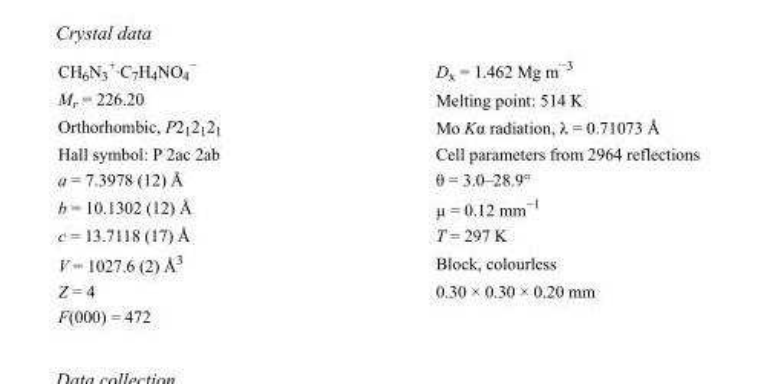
<table><tbody><tr><td>CH<sub>6</sub>N<sub>3</sub> <sup>+</sup>·C<sub>7</sub>H<sub>4</sub>NO<sub>4</sub> <sup>−</sup></td><td>D<sub>x</sub> = 1.462 Mg m<sup>−3</sup></td></tr><tr><td>M<sub>r</sub> = 226.20</td><td>Melting point: 514 K</td></tr><tr><td>Orthorhombic, P2<sub>1</sub>2<sub>1</sub>2<sub>1</sub></td><td>Mo Kα radiation, λ = 0.71073 Å</td></tr><tr><td>Hall symbol: P 2ac 2ab</td><td>Cell parameters from 2964 reflections</td></tr><tr><td>a = 7.3978 (12) Å</td><td>θ = 3.0–28.9°</td></tr><tr><td>b = 10.1302 (12) Å</td><td>µ = 0.12 mm<sup>−1</sup></td></tr><tr><td>c = 13.7118 (17) Å</td><td>T = 297 K</td></tr><tr><td>V = 1027.6 (2) Å<sup>3</sup></td><td>Block, colourless</td></tr><tr><td>Z = 4</td><td>0.30 × 0.30 × 0.20 mm</td></tr><tr><td>F(000) = 472</td><td></td></tr></tbody></table>